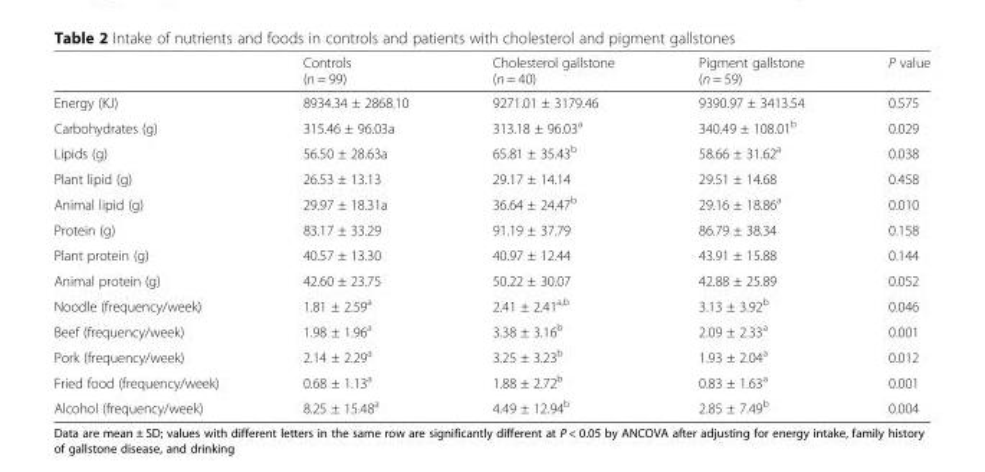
<table><thead><tr><td></td><td>Controls (n = 99)</td><td>Cholesterol gallstone (n = 40)</td><td>Pigment gallstone (n = 59)</td><td>P value</td></tr></thead><tbody><tr><td>Energy (KJ)</td><td>8934.34 ± 2868.10</td><td>9271.01 ± 3179.46</td><td>9390.97 ± 3413.54</td><td>0.575</td></tr><tr><td>Carbohydrates (g)</td><td>315.46 ± 96.03a</td><td>313.18 ± 96.03<sup>a</sup></td><td>340.49 ± 108.01<sup>b</sup></td><td>0.029</td></tr><tr><td>Lipids (g)</td><td>56.50 ± 28.63a</td><td>65.81 ± 35.43<sup>b</sup></td><td>58.66 ± 31.62<sup>a</sup></td><td>0.038</td></tr><tr><td>Plant lipid (g)</td><td>26.53 ± 13.13</td><td>29.17 ± 14.14</td><td>29.51 ± 14.68</td><td>0.458</td></tr><tr><td>Animal lipid (g)</td><td>29.97 ± 18.31a</td><td>36.64 ± 24.47<sup>b</sup></td><td>29.16 ± 18.86<sup>a</sup></td><td>0.010</td></tr><tr><td>Protein (g)</td><td>83.17 ± 33.29</td><td>91.19 ± 37.79</td><td>86.79 ± 38.34</td><td>0.158</td></tr><tr><td>Plant protein (g)</td><td>40.57 ± 13.30</td><td>40.97 ± 12.44</td><td>43.91 ± 15.88</td><td>0.144</td></tr><tr><td>Animal protein (g)</td><td>42.60 ± 23.75</td><td>50.22 ± 30.07</td><td>42.88 ± 25.89</td><td>0.052</td></tr><tr><td>Noodle (frequency/week)</td><td>1.81 ± 2.59<sup>a</sup></td><td>2.41 ± 2.41<sup>a,b</sup></td><td>3.13 ± 3.92<sup>b</sup></td><td>0.046</td></tr><tr><td>Beef (frequency/week)</td><td>1.98 ± 1.96<sup>a</sup></td><td>3.38 ± 3.16<sup>b</sup></td><td>2.09 ± 2.33<sup>a</sup></td><td>0.001</td></tr><tr><td>Pork (frequency/week)</td><td>2.14 ± 2.29<sup>a</sup></td><td>3.25 ± 3.23<sup>b</sup></td><td>1.93 ± 2.04<sup>a</sup></td><td>0.012</td></tr><tr><td>Fried food (frequency/week)</td><td>0.68 ± 1.13<sup>a</sup></td><td>1.88 ± 2.72<sup>b</sup></td><td>0.83 ± 1.63<sup>a</sup></td><td>0.001</td></tr><tr><td>Alcohol (frequency/week)</td><td>8.25 ± 15.48<sup>a</sup></td><td>4.49 ± 12.94<sup>b</sup></td><td>2.85 ± 7.49<sup>b</sup></td><td>0.004</td></tr></tbody></table>